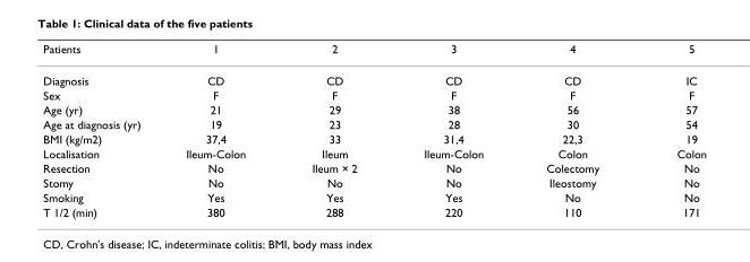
<table><thead><tr><td>Patients</td><td>1</td><td>2</td><td>3</td><td>4</td><td>5</td></tr></thead><tbody><tr><td>Diagnosis</td><td>CD</td><td>CD</td><td>CD</td><td>CD</td><td>IC</td></tr><tr><td>Sex</td><td>F</td><td>F</td><td>F</td><td>F</td><td>F</td></tr><tr><td>Age (yr)</td><td>21</td><td>29</td><td>38</td><td>56</td><td>57</td></tr><tr><td>Age at diagnosis (yr)</td><td>19</td><td>23</td><td>28</td><td>30</td><td>54</td></tr><tr><td>BMI (kg/m2)</td><td>37,4</td><td>33</td><td>31,4</td><td>22,3</td><td>19</td></tr><tr><td>Localisation</td><td>Ileum-Colon</td><td>Ileum</td><td>Ileum-Colon</td><td>Colon</td><td>Colon</td></tr><tr><td>Resection</td><td>No</td><td>Ileum × 2</td><td>No</td><td>Colectomy</td><td>No</td></tr><tr><td>Stomy</td><td>No</td><td>No</td><td>No</td><td>Ileostomy</td><td>No</td></tr><tr><td>Smoking</td><td>Yes</td><td>Yes</td><td>Yes</td><td>No</td><td>No</td></tr><tr><td>T 1/2 (min)</td><td>380</td><td>288</td><td>220</td><td>110</td><td>171</td></tr></tbody></table>